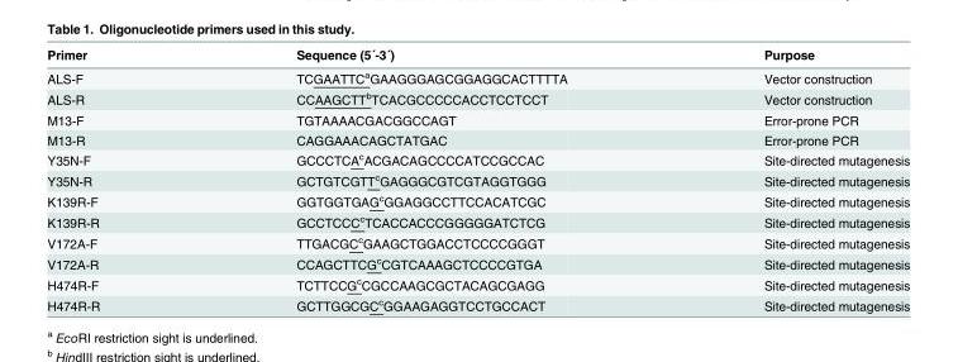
<table><thead><tr><td>Primer</td><td>Sequence (5´-3´)</td><td>Purpose</td></tr></thead><tbody><tr><td>ALS-F</td><td>TCGAATTC<sup>a</sup>GAAGGGAGCGGAGGCACTTTTA</td><td>Vector construction</td></tr><tr><td>ALS-R</td><td>CCAAGCTT<sup>b</sup>TCACGCCCCCACCTCCTCCT</td><td>Vector construction</td></tr><tr><td>M13-F</td><td>TGTAAAACGACGGCCAGT</td><td>Error-prone PCR</td></tr><tr><td>M13-R</td><td>CAGGAAACAGCTATGAC</td><td>Error-prone PCR</td></tr><tr><td>Y35N-F</td><td>GCCCTCA<sup>c</sup>ACGACAGCCCCATCCGCCAC</td><td>Site-directed mutagenesis</td></tr><tr><td>Y35N-R</td><td>GCTGTCGTT<sup>c</sup>GAGGGCGTCGTAGGTGGG</td><td>Site-directed mutagenesis</td></tr><tr><td>K139R-F</td><td>GGTGGTGAG<sup>c</sup>GGAGGCCTTCCACATCGC</td><td>Site-directed mutagenesis</td></tr><tr><td>K139R-R</td><td>GCCTCCC<sup>c</sup>TCACCACCCGGGGGATCTCG</td><td>Site-directed mutagenesis</td></tr><tr><td>V172A-F</td><td>TTGACGC<sup>c</sup>GAAGCTGGACCTCCCCGGGT</td><td>Site-directed mutagenesis</td></tr><tr><td>V172A-R</td><td>CCAGCTTCG<sup>c</sup>CGTCAAAGCTCCCCGTGA</td><td>Site-directed mutagenesis</td></tr><tr><td>H474R-F</td><td>TCTTCCG<sup>c</sup>CGCCAAGCGCTACAGCGAGG</td><td>Site-directed mutagenesis</td></tr><tr><td>H474R-R</td><td>GCTTGGCGC<sup>c</sup>GGAAGAGGTCCTGCCACT</td><td>Site-directed mutagenesis</td></tr></tbody></table>